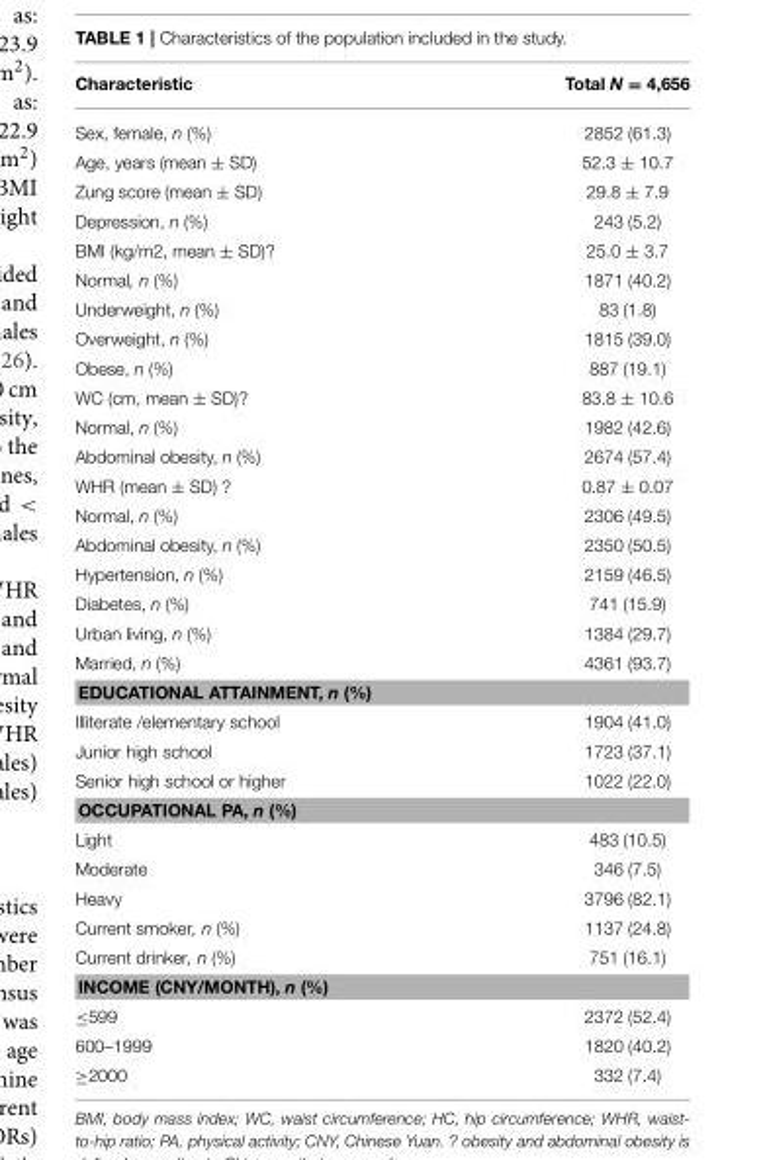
<table><thead><tr><td>Characteristic</td><td>Total N = 4,656</td></tr></thead><tbody><tr><td>Sex, female, n (%)</td><td>2852 (61.3)</td></tr><tr><td>Age, years (mean ± SD)</td><td>52.3 ± 10.7</td></tr><tr><td>Zung score (mean ± SD)</td><td>29.8 ± 7.9</td></tr><tr><td>Depression, n (%)</td><td>243 (5.2)</td></tr><tr><td>BMI (kg/m2, mean ± SD)?</td><td>25.0 ± 3.7</td></tr><tr><td>Normal, n (%)</td><td>1871 (40.2)</td></tr><tr><td>Underweight, n (%)</td><td>83 (1.8)</td></tr><tr><td>Overweight, n (%)</td><td>1815 (39.0)</td></tr><tr><td>Obese, n (%)</td><td>887 (19.1)</td></tr><tr><td>WC (cm, mean ± SD)?</td><td>83.8 ± 10.6</td></tr><tr><td>Normal, n (%)</td><td>1982 (42.6)</td></tr><tr><td>Abdominal obesity, n (%)</td><td>2674 (57.4)</td></tr><tr><td>WHR (mean ± SD) ?</td><td>0.87 ± 0.07</td></tr><tr><td>Normal, n (%)</td><td>2306 (49.5)</td></tr><tr><td>Abdominal obesity, n (%)</td><td>2350 (50.5)</td></tr><tr><td>Hypertension, n (%)</td><td>2159 (46.5)</td></tr><tr><td>Diabetes, n (%)</td><td>741 (15.9)</td></tr><tr><td>Urban living, n (%)</td><td>1384 (29.7)</td></tr><tr><td>Married, n (%)</td><td>4361 (93.7)</td></tr><tr><td colspan="2">EDUCATIONAL ATTAINMENT, n (%)</td></tr><tr><td>Illiterate /elementary school</td><td>1904 (41.0)</td></tr><tr><td>Junior high school</td><td>1723 (37.1)</td></tr><tr><td>Senior high school or higher</td><td>1022 (22.0)</td></tr><tr><td colspan="2">OCCUPATIONAL PA, n (%)</td></tr><tr><td>Light</td><td>483 (10.5)</td></tr><tr><td>Moderate</td><td>346 (7.5)</td></tr><tr><td>Heavy</td><td>3796 (82.1)</td></tr><tr><td>Current smoker, n (%)</td><td>1137 (24.8)</td></tr><tr><td>Current drinker, n (%)</td><td>751 (16.1)</td></tr><tr><td colspan="2">INCOME (CNY/MONTH), n (%)</td></tr><tr><td>≤599</td><td>2372 (52.4)</td></tr><tr><td>600–1999</td><td>1820 (40.2)</td></tr><tr><td>≥2000</td><td>332 (7.4)</td></tr></tbody></table>